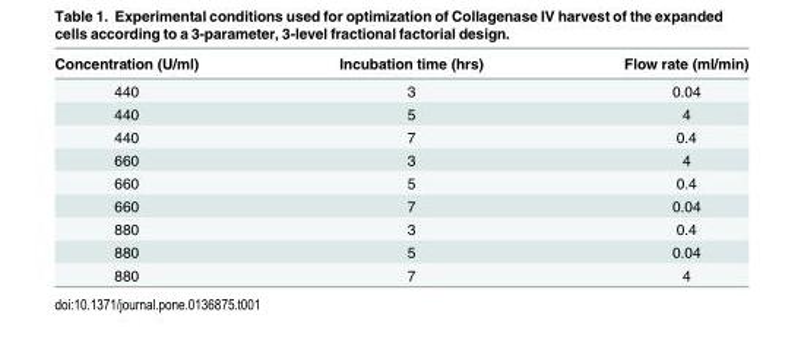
<table><thead><tr><td>Concentration (U/ml)</td><td>Incubation time (hrs)</td><td>Flow rate (ml/min)</td></tr></thead><tbody><tr><td>440</td><td>3</td><td>0.04</td></tr><tr><td>440</td><td>5</td><td>4</td></tr><tr><td>440</td><td>7</td><td>0.4</td></tr><tr><td>660</td><td>3</td><td>4</td></tr><tr><td>660</td><td>5</td><td>0.4</td></tr><tr><td>660</td><td>7</td><td>0.04</td></tr><tr><td>880</td><td>3</td><td>0.4</td></tr><tr><td>880</td><td>5</td><td>0.04</td></tr><tr><td>880</td><td>7</td><td>4</td></tr></tbody></table>